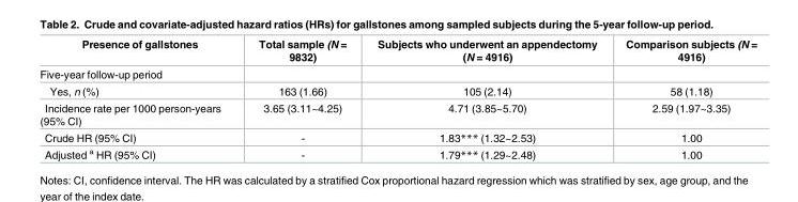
<table><thead><tr><td>Presence of gallstones</td><td>Total sample (N = 9832)</td><td>Subjects who underwent an appendectomy (N = 4916)</td><td>Comparison subjects (N = 4916)</td></tr></thead><tbody><tr><td colspan="4">Five-year follow-up period</td></tr><tr><td>Yes, n (%)</td><td>163 (1.66)</td><td>105 (2.14)</td><td>58 (1.18)</td></tr><tr><td>Incidence rate per 1000 person-years (95% CI)</td><td>3.65 (3.11~4.25)</td><td>4.71 (3.85~5.70)</td><td>2.59 (1.97~3.35)</td></tr><tr><td>Crude HR (95% CI)</td><td>-</td><td>1.83*** (1.32~2.53)</td><td>1.00</td></tr><tr><td>Adjusted <sup>a</sup> HR (95% CI)</td><td>-</td><td>1.79*** (1.29~2.48)</td><td>1.00</td></tr></tbody></table>